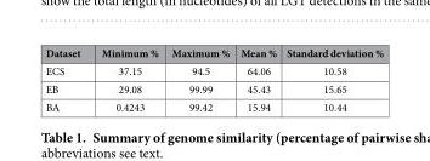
<table><thead><tr><td>Dataset</td><td>Minimum %</td><td>Maximum %</td><td>Mean %</td><td>Standard deviation %</td></tr></thead><tbody><tr><td>ECS</td><td>37.15</td><td>94.5</td><td>64.06</td><td>10.58</td></tr><tr><td>EB</td><td>29.08</td><td>99.99</td><td>45.43</td><td>15.65</td></tr><tr><td>BA</td><td>0.4243</td><td>99.42</td><td>15.94</td><td>10.44</td></tr></tbody></table>